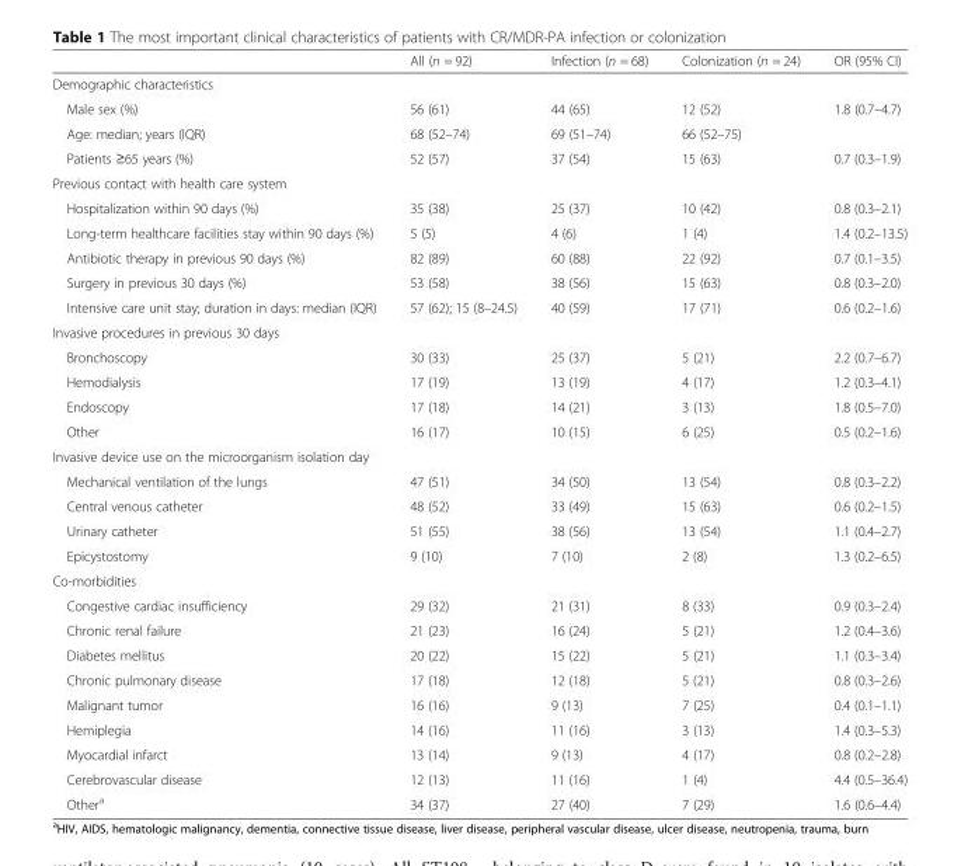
<table><thead><tr><td></td><td>All (n = 92)</td><td>Infection (n = 68)</td><td>Colonization (n = 24)</td><td>OR (95% CI)</td></tr></thead><tbody><tr><td colspan="5">Demographic characteristics</td></tr><tr><td>Male sex (%)</td><td>56 (61)</td><td>44 (65)</td><td>12 (52)</td><td>1.8 (0.7–4.7)</td></tr><tr><td>Age: median; years (IQR)</td><td>68 (52–74)</td><td>69 (51–74)</td><td>66 (52–75)</td><td></td></tr><tr><td>Patients ≥65 years (%)</td><td>52 (57)</td><td>37 (54)</td><td>15 (63)</td><td>0.7 (0.3–1.9)</td></tr><tr><td colspan="5">Previous contact with health care system</td></tr><tr><td>Hospitalization within 90 days (%)</td><td>35 (38)</td><td>25 (37)</td><td>10 (42)</td><td>0.8 (0.3–2.1)</td></tr><tr><td>Long-term healthcare facilities stay within 90 days (%)</td><td>5 (5)</td><td>4 (6)</td><td>1 (4)</td><td>1.4 (0.2–13.5)</td></tr><tr><td>Antibiotic therapy in previous 90 days (%)</td><td>82 (89)</td><td>60 (88)</td><td>22 (92)</td><td>0.7 (0.1–3.5)</td></tr><tr><td>Surgery in previous 30 days (%)</td><td>53 (58)</td><td>38 (56)</td><td>15 (63)</td><td>0.8 (0.3–2.0)</td></tr><tr><td>Intensive care unit stay; duration in days: median (IQR)</td><td>57 (62); 15 (8–24.5)</td><td>40 (59)</td><td>17 (71)</td><td>0.6 (0.2–1.6)</td></tr><tr><td colspan="5">Invasive procedures in previous 30 days</td></tr><tr><td>Bronchoscopy</td><td>30 (33)</td><td>25 (37)</td><td>5 (21)</td><td>2.2 (0.7–6.7)</td></tr><tr><td>Hemodialysis</td><td>17 (19)</td><td>13 (19)</td><td>4 (17)</td><td>1.2 (0.3–4.1)</td></tr><tr><td>Endoscopy</td><td>17 (18)</td><td>14 (21)</td><td>3 (13)</td><td>1.8 (0.5–7.0)</td></tr><tr><td>Other</td><td>16 (17)</td><td>10 (15)</td><td>6 (25)</td><td>0.5 (0.2–1.6)</td></tr><tr><td colspan="5">Invasive device use on the microorganism isolation day</td></tr><tr><td>Mechanical ventilation of the lungs</td><td>47 (51)</td><td>34 (50)</td><td>13 (54)</td><td>0.8 (0.3–2.2)</td></tr><tr><td>Central venous catheter</td><td>48 (52)</td><td>33 (49)</td><td>15 (63)</td><td>0.6 (0.2–1.5)</td></tr><tr><td>Urinary catheter</td><td>51 (55)</td><td>38 (56)</td><td>13 (54)</td><td>1.1 (0.4–2.7)</td></tr><tr><td>Epicystostomy</td><td>9 (10)</td><td>7 (10)</td><td>2 (8)</td><td>1.3 (0.2–6.5)</td></tr><tr><td colspan="5">Co-morbidities</td></tr><tr><td>Congestive cardiac insufficiency</td><td>29 (32)</td><td>21 (31)</td><td>8 (33)</td><td>0.9 (0.3–2.4)</td></tr><tr><td>Chronic renal failure</td><td>21 (23)</td><td>16 (24)</td><td>5 (21)</td><td>1.2 (0.4–3.6)</td></tr><tr><td>Diabetes mellitus</td><td>20 (22)</td><td>15 (22)</td><td>5 (21)</td><td>1.1 (0.3–3.4)</td></tr><tr><td>Chronic pulmonary disease</td><td>17 (18)</td><td>12 (18)</td><td>5 (21)</td><td>0.8 (0.3–2.6)</td></tr><tr><td>Malignant tumor</td><td>16 (16)</td><td>9 (13)</td><td>7 (25)</td><td>0.4 (0.1–1.1)</td></tr><tr><td>Hemiplegia</td><td>14 (16)</td><td>11 (16)</td><td>3 (13)</td><td>1.4 (0.3–5.3)</td></tr><tr><td>Myocardial infarct</td><td>13 (14)</td><td>9 (13)</td><td>4 (17)</td><td>0.8 (0.2–2.8)</td></tr><tr><td>Cerebrovascular disease</td><td>12 (13)</td><td>11 (16)</td><td>1 (4)</td><td>4.4 (0.5–36.4)</td></tr><tr><td>Other<sup>a</sup></td><td>34 (37)</td><td>27 (40)</td><td>7 (29)</td><td>1.6 (0.6–4.4)</td></tr></tbody></table>